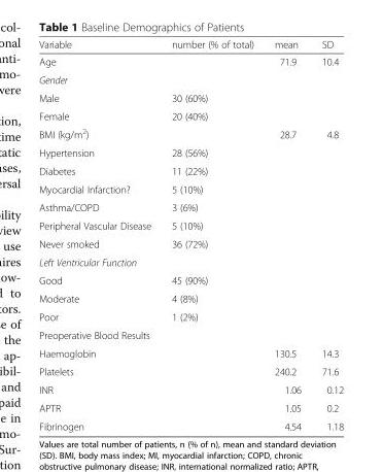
<table><thead><tr><td>Variable</td><td>number (% of total)</td><td>mean</td><td>SD</td></tr></thead><tbody><tr><td>Age</td><td></td><td>71.9</td><td>10.4</td></tr><tr><td colspan="4">Gender</td></tr><tr><td>Male</td><td>30 (60%)</td><td></td><td></td></tr><tr><td>Female</td><td>20 (40%)</td><td></td><td></td></tr><tr><td>BMI (kg/m<sup>2</sup>)</td><td></td><td>28.7</td><td>4.8</td></tr><tr><td>Hypertension</td><td>28 (56%)</td><td></td><td></td></tr><tr><td>Diabetes</td><td>11 (22%)</td><td></td><td></td></tr><tr><td>Myocardial Infarction?</td><td>5 (10%)</td><td></td><td></td></tr><tr><td>Asthma/COPD</td><td>3 (6%)</td><td></td><td></td></tr><tr><td>Peripheral Vascular Disease</td><td>5 (10%)</td><td></td><td></td></tr><tr><td>Never smoked</td><td>36 (72%)</td><td></td><td></td></tr><tr><td colspan="4">Left Ventricular Function</td></tr><tr><td>Good</td><td>45 (90%)</td><td></td><td></td></tr><tr><td>Moderate</td><td>4 (8%)</td><td></td><td></td></tr><tr><td>Poor</td><td>1 (2%)</td><td></td><td></td></tr><tr><td colspan="4">Preoperative Blood Results</td></tr><tr><td>Haemoglobin</td><td></td><td>130.5</td><td>14.3</td></tr><tr><td>Platelets</td><td></td><td>240.2</td><td>71.6</td></tr><tr><td>INR</td><td></td><td>1.06</td><td>0.12</td></tr><tr><td>APTR</td><td></td><td>1.05</td><td>0.2</td></tr><tr><td>Fibrinogen</td><td></td><td>4.54</td><td>1.18</td></tr></tbody></table>